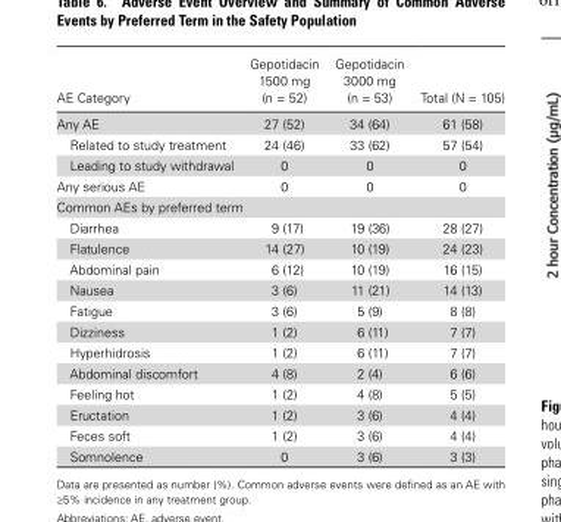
<table><thead><tr><td>AE Category</td><td>Gepotidacin 1500 mg (n = 52)</td><td>Gepotidacin 3000 mg (n = 53)</td><td>Total (N = 105)</td></tr></thead><tbody><tr><td>Any AE</td><td>27 (52)</td><td>34 (64)</td><td>61 (58)</td></tr><tr><td>Related to study treatment</td><td>24 (46)</td><td>33 (62)</td><td>57 (54)</td></tr><tr><td>Leading to study withdrawal</td><td>0</td><td>0</td><td>0</td></tr><tr><td>Any serious AE</td><td>0</td><td>0</td><td>0</td></tr><tr><td colspan="4">Common AEs by preferred term</td></tr><tr><td>Diarrhea</td><td>9 (17)</td><td>19 (36)</td><td>28 (27)</td></tr><tr><td>Flatulence</td><td>14 (27)</td><td>10 (19)</td><td>24 (23)</td></tr><tr><td>Abdominal pain</td><td>6 (12)</td><td>10 (19)</td><td>16 (15)</td></tr><tr><td>Nausea</td><td>3 (6)</td><td>11 (21)</td><td>14 (13)</td></tr><tr><td>Fatigue</td><td>3 (6)</td><td>5 (9)</td><td>8 (8)</td></tr><tr><td>Dizziness</td><td>1 (2)</td><td>6 (11)</td><td>7 (7)</td></tr><tr><td>Hyperhidrosis</td><td>1 (2)</td><td>6 (11)</td><td>7 (7)</td></tr><tr><td>Abdominal discomfort</td><td>4 (8)</td><td>2 (4)</td><td>6 (6)</td></tr><tr><td>Feeling hot</td><td>1 (2)</td><td>4 (8)</td><td>5 (5)</td></tr><tr><td>Eructation</td><td>1 (2)</td><td>3 (6)</td><td>4 (4)</td></tr><tr><td>Feces soft</td><td>1 (2)</td><td>3 (6)</td><td>4 (4)</td></tr><tr><td>Somnolence</td><td>0</td><td>3 (6)</td><td>3 (3)</td></tr></tbody></table>